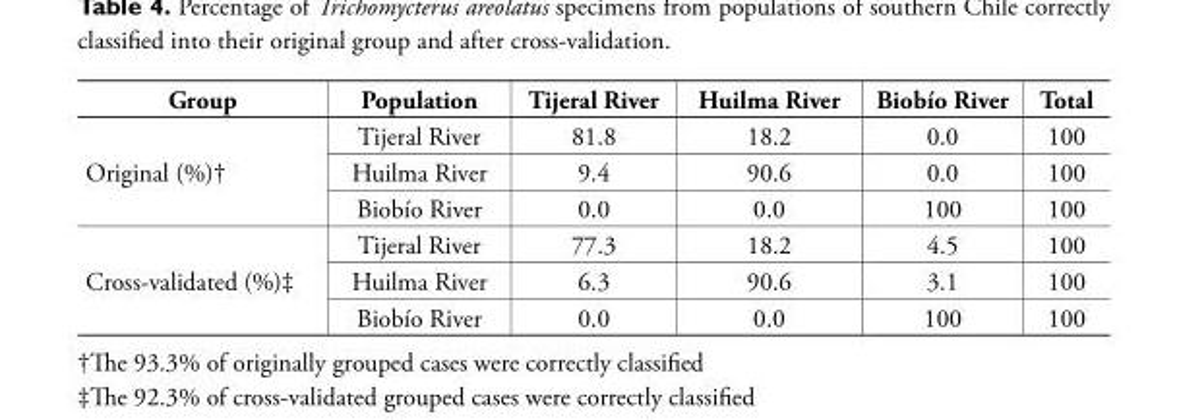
<table><thead><tr><td>Group</td><td>Population</td><td>Tijeral River</td><td>Huilma River</td><td>Biobío River</td><td>Total</td></tr></thead><tbody><tr><td rowspan="3">Original (%)†</td><td>Tijeral River</td><td>81.8</td><td>18.2</td><td>0.0</td><td>100</td></tr><tr><td>Huilma River</td><td>9.4</td><td>90.6</td><td>0.0</td><td>100</td></tr><tr><td>Biobío River</td><td>0.0</td><td>0.0</td><td>100</td><td>100</td></tr><tr><td rowspan="3">Cross-validated (%)‡</td><td>Tijeral River</td><td>77.3</td><td>18.2</td><td>4.5</td><td>100</td></tr><tr><td>Huilma River</td><td>6.3</td><td>90.6</td><td>3.1</td><td>100</td></tr><tr><td>Biobío River</td><td>0.0</td><td>0.0</td><td>100</td><td>100</td></tr></tbody></table>